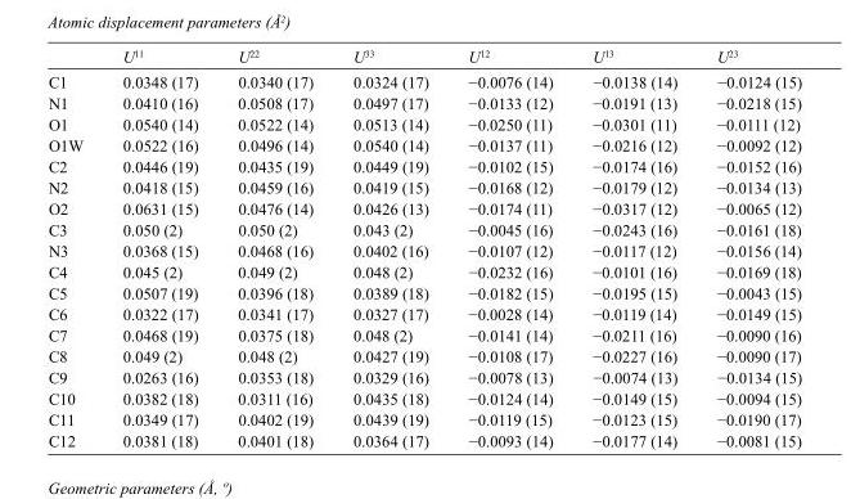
<table><thead><tr><td></td><td>U<sup>11</sup></td><td>U<sup>22</sup></td><td>U<sup>33</sup></td><td>U<sup>12</sup></td><td>U<sup>13</sup></td><td>U<sup>23</sup></td></tr></thead><tbody><tr><td>C1</td><td>0.0348 (17)</td><td>0.0340 (17)</td><td>0.0324 (17)</td><td>−0.0076 (14)</td><td>−0.0138 (14)</td><td>−0.0124 (15)</td></tr><tr><td>N1</td><td>0.0410 (16)</td><td>0.0508 (17)</td><td>0.0497 (17)</td><td>−0.0133 (12)</td><td>−0.0191 (13)</td><td>−0.0218 (15)</td></tr><tr><td>O1</td><td>0.0540 (14)</td><td>0.0522 (14)</td><td>0.0513 (14)</td><td>−0.0250 (11)</td><td>−0.0301 (11)</td><td>−0.0111 (12)</td></tr><tr><td>O1W</td><td>0.0522 (16)</td><td>0.0496 (14)</td><td>0.0540 (14)</td><td>−0.0137 (11)</td><td>−0.0216 (12)</td><td>−0.0092 (12)</td></tr><tr><td>C2</td><td>0.0446 (19)</td><td>0.0435 (19)</td><td>0.0449 (19)</td><td>−0.0102 (15)</td><td>−0.0174 (16)</td><td>−0.0152 (16)</td></tr><tr><td>N2</td><td>0.0418 (15)</td><td>0.0459 (16)</td><td>0.0419 (15)</td><td>−0.0168 (12)</td><td>−0.0179 (12)</td><td>−0.0134 (13)</td></tr><tr><td>O2</td><td>0.0631 (15)</td><td>0.0476 (14)</td><td>0.0426 (13)</td><td>−0.0174 (11)</td><td>−0.0317 (12)</td><td>−0.0065 (12)</td></tr><tr><td>C3</td><td>0.050 (2)</td><td>0.050 (2)</td><td>0.043 (2)</td><td>−0.0045 (16)</td><td>−0.0243 (16)</td><td>−0.0161 (18)</td></tr><tr><td>N3</td><td>0.0368 (15)</td><td>0.0468 (16)</td><td>0.0402 (16)</td><td>−0.0107 (12)</td><td>−0.0117 (12)</td><td>−0.0156 (14)</td></tr><tr><td>C4</td><td>0.045 (2)</td><td>0.049 (2)</td><td>0.048 (2)</td><td>−0.0232 (16)</td><td>−0.0101 (16)</td><td>−0.0169 (18)</td></tr><tr><td>C5</td><td>0.0507 (19)</td><td>0.0396 (18)</td><td>0.0389 (18)</td><td>−0.0182 (15)</td><td>−0.0195 (15)</td><td>−0.0043 (15)</td></tr><tr><td>C6</td><td>0.0322 (17)</td><td>0.0341 (17)</td><td>0.0327 (17)</td><td>−0.0028 (14)</td><td>−0.0119 (14)</td><td>−0.0149 (15)</td></tr><tr><td>C7</td><td>0.0468 (19)</td><td>0.0375 (18)</td><td>0.048 (2)</td><td>−0.0141 (14)</td><td>−0.0211 (16)</td><td>−0.0090 (16)</td></tr><tr><td>C8</td><td>0.049 (2)</td><td>0.048 (2)</td><td>0.0427 (19)</td><td>−0.0108 (17)</td><td>−0.0227 (16)</td><td>−0.0090 (17)</td></tr><tr><td>C9</td><td>0.0263 (16)</td><td>0.0353 (18)</td><td>0.0329 (16)</td><td>−0.0078 (13)</td><td>−0.0074 (13)</td><td>−0.0134 (15)</td></tr><tr><td>C10</td><td>0.0382 (18)</td><td>0.0311 (16)</td><td>0.0435 (18)</td><td>−0.0124 (14)</td><td>−0.0149 (15)</td><td>−0.0094 (15)</td></tr><tr><td>C11</td><td>0.0349 (17)</td><td>0.0402 (19)</td><td>0.0439 (19)</td><td>−0.0119 (15)</td><td>−0.0123 (15)</td><td>−0.0190 (17)</td></tr><tr><td>C12</td><td>0.0381 (18)</td><td>0.0401 (18)</td><td>0.0364 (17)</td><td>−0.0093 (14)</td><td>−0.0177 (14)</td><td>−0.0081 (15)</td></tr></tbody></table>